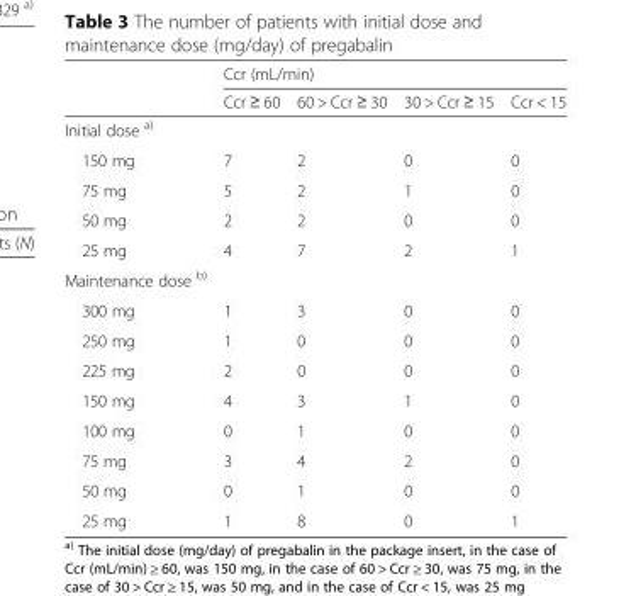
<table><thead><tr><td rowspan="2"></td><td colspan="4">Ccr (mL/min)</td></tr><tr><td>Ccr ≥ 60</td><td>60 &gt; Ccr ≥ 30</td><td>30 &gt; Ccr ≥ 15</td><td>Ccr &lt; 15</td></tr></thead><tbody><tr><td colspan="5">Initial dose <sup>a)</sup></td></tr><tr><td>150 mg</td><td>7</td><td>2</td><td>0</td><td>0</td></tr><tr><td>75 mg</td><td>5</td><td>2</td><td>1</td><td>0</td></tr><tr><td>50 mg</td><td>2</td><td>2</td><td>0</td><td>0</td></tr><tr><td>25 mg</td><td>4</td><td>7</td><td>2</td><td>1</td></tr><tr><td colspan="5">Maintenance dose <sup>b)</sup></td></tr><tr><td>300 mg</td><td>1</td><td>3</td><td>0</td><td>0</td></tr><tr><td>250 mg</td><td>1</td><td>0</td><td>0</td><td>0</td></tr><tr><td>225 mg</td><td>2</td><td>0</td><td>0</td><td>0</td></tr><tr><td>150 mg</td><td>4</td><td>3</td><td>1</td><td>0</td></tr><tr><td>100 mg</td><td>0</td><td>1</td><td>0</td><td>0</td></tr><tr><td>75 mg</td><td>3</td><td>4</td><td>2</td><td>0</td></tr><tr><td>50 mg</td><td>0</td><td>1</td><td>0</td><td>0</td></tr><tr><td>25 mg</td><td>1</td><td>8</td><td>0</td><td>1</td></tr></tbody></table>